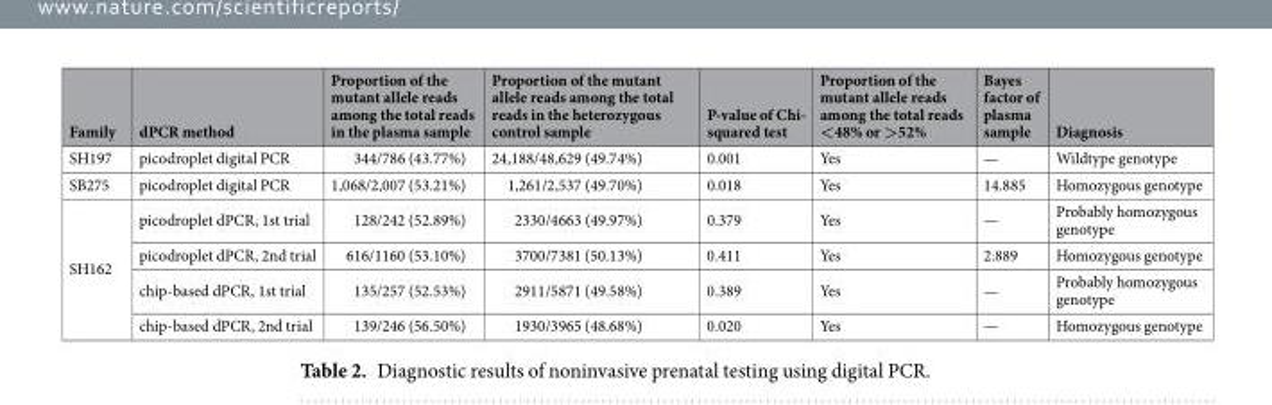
<table><thead><tr><td>Family</td><td>dPCR method</td><td>Proportion of the mutant allele reads among the total reads in the plasma sample</td><td>Proportion of the mutant allele reads among the total reads in the heterozygous control sample</td><td>P-value of Chi- squared test</td><td>Proportion of the mutant allele reads among the total reads &lt;48% or &gt;52%</td><td>Bayes factor of plasma sample</td><td>Diagnosis</td></tr></thead><tbody><tr><td>SH197</td><td>picodroplet digital PCR</td><td>344/786 (43.77%)</td><td>24,188/48,629 (49.74%)</td><td>0.001</td><td>Yes</td><td>—</td><td>Wildtype genotype</td></tr><tr><td>SB275</td><td>picodroplet digital PCR</td><td>1,068/2,007 (53.21%)</td><td>1,261/2,537 (49.70%)</td><td>0.018</td><td>Yes</td><td>14.885</td><td>Homozygous genotype</td></tr><tr><td rowspan="4">SH162</td><td>picodroplet dPCR, 1st trial</td><td>128/242 (52.89%)</td><td>2330/4663 (49.97%)</td><td>0.379</td><td>Yes</td><td>—</td><td>Probably homozygous genotype</td></tr><tr><td>picodroplet dPCR, 2nd trial</td><td>616/1160 (53.10%)</td><td>3700/7381 (50.13%)</td><td>0.411</td><td>Yes</td><td>2.889</td><td>Homozygous genotype</td></tr><tr><td>chip-based dPCR, 1st trial</td><td>135/257 (52.53%)</td><td>2911/5871 (49.58%)</td><td>0.389</td><td>Yes</td><td>—</td><td>Probably homozygous genotype</td></tr><tr><td>chip-based dPCR, 2nd trial</td><td>139/246 (56.50%)</td><td>1930/3965 (48.68%)</td><td>0.020</td><td>Yes</td><td>—</td><td>Homozygous genotype</td></tr></tbody></table>